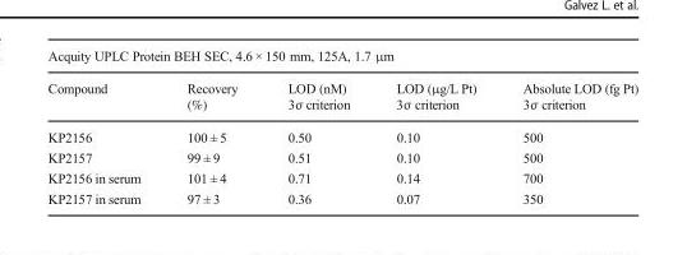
<table><thead><tr><td colspan="5">Acquity UPLC Protein BEH SEC, 4.6 × 150 mm, 125A, 1.7 μm</td></tr><tr><td>Compound</td><td>Recovery (%)</td><td>LOD (nM) 3σ criterion</td><td>LOD (μg/L Pt) 3σ criterion</td><td>Absolute LOD (fg Pt) 3σ criterion</td></tr></thead><tbody><tr><td>KP2156</td><td>100 ± 5</td><td>0.50</td><td>0.10</td><td>500</td></tr><tr><td>KP2157</td><td>99 ± 9</td><td>0.51</td><td>0.10</td><td>500</td></tr><tr><td>KP2156 in serum</td><td>101 ± 4</td><td>0.71</td><td>0.14</td><td>700</td></tr><tr><td>KP2157 in serum</td><td>97 ± 3</td><td>0.36</td><td>0.07</td><td>350</td></tr></tbody></table>